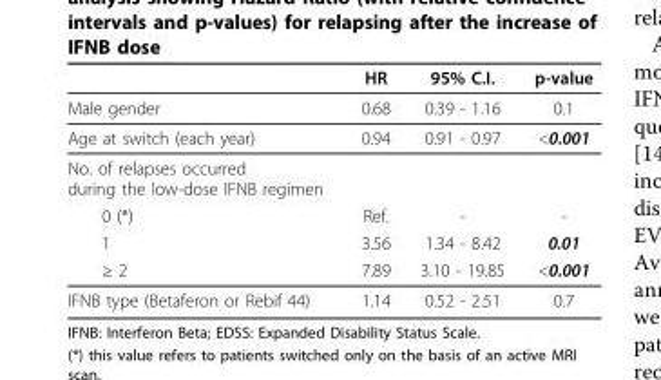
<table><thead><tr><td></td><td>HR</td><td>95% C.I.</td><td>p-value</td></tr></thead><tbody><tr><td>Male gender</td><td>0.68</td><td>0.39 - 1.16</td><td>0.1</td></tr><tr><td>Age at switch (each year)</td><td>0.94</td><td>0.91 - 0.97</td><td>&lt;0.001</td></tr><tr><td colspan="4">No. of relapses occurred during the low-dose IFNB regimen</td></tr><tr><td>0 (*)</td><td>Ref.</td><td>-</td><td>-</td></tr><tr><td>1</td><td>3.56</td><td>1.34 - 8.42</td><td>0.01</td></tr><tr><td>≥ 2</td><td>7.89</td><td>3.10 - 19.85</td><td>&lt;0.001</td></tr><tr><td>IFNB type (Betaferon or Rebif 44)</td><td>1.14</td><td>0.52 - 2.51</td><td>0.7</td></tr></tbody></table>